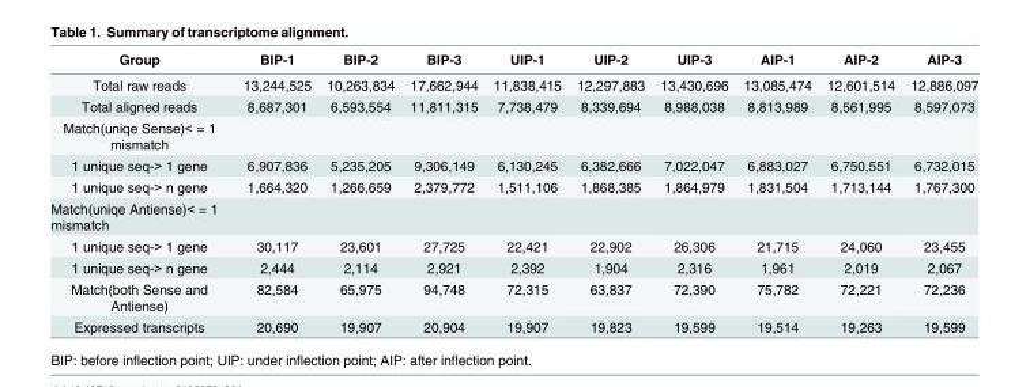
<table><thead><tr><td>Group</td><td>BIP-1</td><td>BIP-2</td><td>BIP-3</td><td>UIP-1</td><td>UIP-2</td><td>UIP-3</td><td>AIP-1</td><td>AIP-2</td><td>AIP-3</td></tr></thead><tbody><tr><td>Total raw reads</td><td>13,244,525</td><td>10,263,834</td><td>17,662,944</td><td>11,838,415</td><td>12,297,883</td><td>13,430,696</td><td>13,085,474</td><td>12,601,514</td><td>12,886,097</td></tr><tr><td>Total aligned reads</td><td>8,687,301</td><td>6,593,554</td><td>11,811,315</td><td>7,738,479</td><td>8,339,694</td><td>8,988,038</td><td>8,813,989</td><td>8,561,995</td><td>8,597,073</td></tr><tr><td colspan="10">Match(uniqe Sense)&lt; = 1 mismatch</td></tr><tr><td>1 unique seq-&gt; 1 gene</td><td>6,907,836</td><td>5,235,205</td><td>9,306,149</td><td>6,130,245</td><td>6,382,666</td><td>7,022,047</td><td>6,883,027</td><td>6,750,551</td><td>6,732,015</td></tr><tr><td>1 unique seq-&gt; n gene</td><td>1,664,320</td><td>1,266,659</td><td>2,379,772</td><td>1,511,106</td><td>1,868,385</td><td>1,864,979</td><td>1,831,504</td><td>1,713,144</td><td>1,767,300</td></tr><tr><td colspan="10">Match(uniqe Antiense)&lt; = 1 mismatch</td></tr><tr><td>1 unique seq-&gt; 1 gene</td><td>30,117</td><td>23,601</td><td>27,725</td><td>22,421</td><td>22,902</td><td>26,306</td><td>21,715</td><td>24,060</td><td>23,455</td></tr><tr><td>1 unique seq-&gt; n gene</td><td>2,444</td><td>2,114</td><td>2,921</td><td>2,392</td><td>1,904</td><td>2,316</td><td>1,961</td><td>2,019</td><td>2,067</td></tr><tr><td>Match(both Sense and Antiense)</td><td>82,584</td><td>65,975</td><td>94,748</td><td>72,315</td><td>63,837</td><td>72,390</td><td>75,782</td><td>72,221</td><td>72,236</td></tr><tr><td>Expressed transcripts</td><td>20,690</td><td>19,907</td><td>20,904</td><td>19,907</td><td>19,823</td><td>19,599</td><td>19,514</td><td>19,263</td><td>19,599</td></tr></tbody></table>